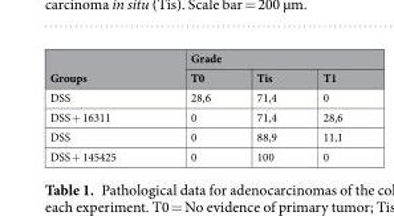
<table><thead><tr><td rowspan="2">Groups</td><td colspan="3">Grade</td></tr><tr><td>T0</td><td>Tis</td><td>T1</td></tr></thead><tbody><tr><td>DSS</td><td>28,6</td><td>71,4</td><td>0</td></tr><tr><td>DSS + 16311</td><td>0</td><td>71,4</td><td>28,6</td></tr><tr><td>DSS</td><td>0</td><td>88,9</td><td>11,1</td></tr><tr><td>DSS + 145425</td><td>0</td><td>100</td><td>0</td></tr></tbody></table>